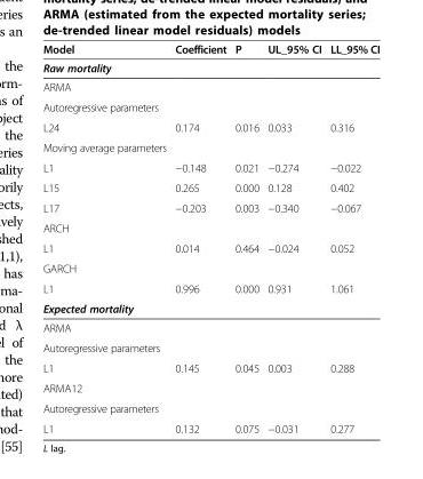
<table><thead><tr><td>Model</td><td>Coefficient</td><td>P</td><td>UL_95% CI</td><td>LL_95% CI</td></tr></thead><tbody><tr><td colspan="5">Raw mortality</td></tr><tr><td colspan="5">ARMA</td></tr><tr><td colspan="5">Autoregressive parameters</td></tr><tr><td>L24</td><td>0.174</td><td>0.016</td><td>0.033</td><td>0.316</td></tr><tr><td colspan="5">Moving average parameters</td></tr><tr><td>L1</td><td>−0.148</td><td>0.021</td><td>−0.274</td><td>−0.022</td></tr><tr><td>L15</td><td>0.265</td><td>0.000</td><td>0.128</td><td>0.402</td></tr><tr><td>L17</td><td>−0.203</td><td>0.003</td><td>−0.340</td><td>−0.067</td></tr><tr><td colspan="5">ARCH</td></tr><tr><td>L1</td><td>0.014</td><td>0.464</td><td>−0.024</td><td>0.052</td></tr><tr><td colspan="5">GARCH</td></tr><tr><td>L1</td><td>0.996</td><td>0.000</td><td>0.931</td><td>1.061</td></tr><tr><td colspan="5">Expected mortality</td></tr><tr><td colspan="5">ARMA</td></tr><tr><td colspan="5">Autoregressive parameters</td></tr><tr><td>L1</td><td>0.145</td><td>0.045</td><td>0.003</td><td>0.288</td></tr><tr><td colspan="5">ARMA12</td></tr><tr><td colspan="5">Autoregressive parameters</td></tr><tr><td>L1</td><td>0.132</td><td>0.075</td><td>−0.031</td><td>0.277</td></tr></tbody></table>